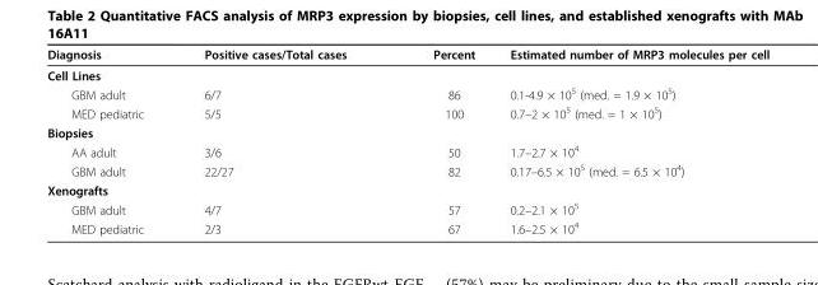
<table><thead><tr><td>Diagnosis</td><td>Positive cases/Total cases</td><td>Percent</td><td>Estimated number of MRP3 molecules per cell</td></tr></thead><tbody><tr><td colspan="4">Cell Lines</td></tr><tr><td>GBM adult</td><td>6/7</td><td>86</td><td>0.1-4.9 × 10<sup>5</sup> (med. = 1.9 × 10<sup>5</sup>)</td></tr><tr><td>MED pediatric</td><td>5/5</td><td>100</td><td>0.7–2 × 105 (med. = 1 × 105)</td></tr><tr><td colspan="4">Biopsies</td></tr><tr><td>AA adult</td><td>3/6</td><td>50</td><td>1.7–2.7 × 104</td></tr><tr><td>GBM adult</td><td>22/27</td><td>82</td><td>0.17–6.5 × 105 (med. = 6.5 × 104)</td></tr><tr><td colspan="4">Xenografts</td></tr><tr><td>GBM adult</td><td>4/7</td><td>57</td><td>0.2–2.1 × 105</td></tr><tr><td>MED pediatric</td><td>2/3</td><td>67</td><td>1.6–2.5 × 104</td></tr></tbody></table>